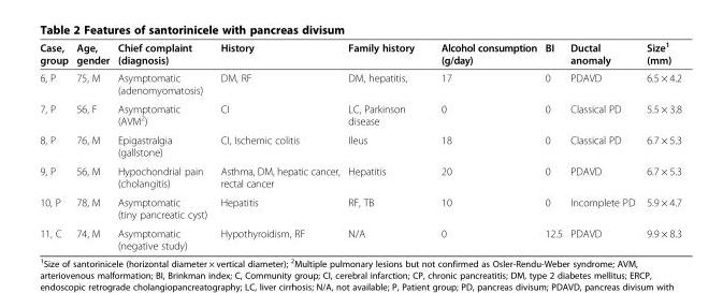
<table><thead><tr><td>Case, group</td><td>Age, gender</td><td>Chief complaint (diagnosis)</td><td>History</td><td>Family history</td><td>Alcohol consumption (g/day)</td><td>BI</td><td>Ductal anomaly</td><td>Size<sup>1</sup> (mm)</td></tr></thead><tbody><tr><td>6, P</td><td>75, M</td><td>Asymptomatic (adenomyomatosis)</td><td>DM, RF</td><td>DM, hepatitis,</td><td>17</td><td>0</td><td>PDAVD</td><td>6.5 × 4.2</td></tr><tr><td>7, P</td><td>56, F</td><td>Asymptomatic (AVM<sup>2</sup>)</td><td>CI</td><td>LC, Parkinson disease</td><td>0</td><td>0</td><td>Classical PD</td><td>5.5 × 3.8</td></tr><tr><td>8, P</td><td>76, M</td><td>Epigastralgia (gallstone)</td><td>CI, Ischemic colitis</td><td>Ileus</td><td>18</td><td>0</td><td>Classical PD</td><td>6.7 × 5.3</td></tr><tr><td>9, P</td><td>56, M</td><td>Hypochondrial pain (cholangitis)</td><td>Asthma, DM, hepatic cancer, rectal cancer</td><td>Hepatitis</td><td>20</td><td>0</td><td>PDAVD</td><td>6.7 × 5.3</td></tr><tr><td>10, P</td><td>78, M</td><td>Asymptomatic (tiny pancreatic cyst)</td><td>Hepatitis</td><td>RF, TB</td><td>10</td><td>0</td><td>Incomplete PD</td><td>5.9 × 4.7</td></tr><tr><td>11, C</td><td>74, M</td><td>Asymptomatic (negative study)</td><td>Hypothyroidism, RF</td><td>N/A</td><td>0</td><td>12.5</td><td>PDAVD</td><td>9.9 × 8.3</td></tr></tbody></table>